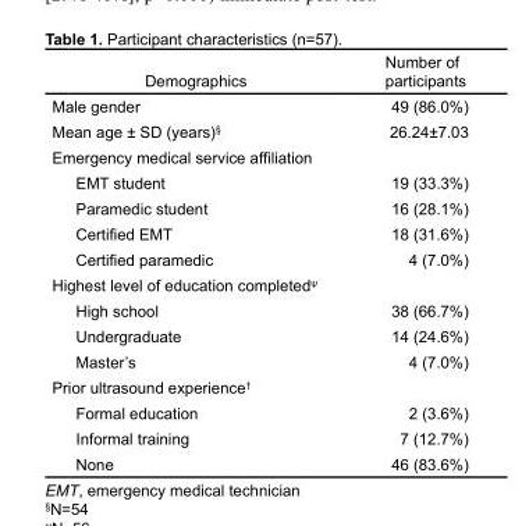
<table><thead><tr><td>Demographics</td><td>Number of participants</td></tr></thead><tbody><tr><td>Male gender</td><td>49 (86.0%)</td></tr><tr><td>Mean age ± SD (years)§</td><td>26.24±7.03</td></tr><tr><td colspan="2">Emergency medical service affiliation</td></tr><tr><td>EMT student</td><td>19 (33.3%)</td></tr><tr><td>Paramedic student</td><td>16 (28.1%)</td></tr><tr><td>Certified EMT</td><td>18 (31.6%)</td></tr><tr><td>Certified paramedic</td><td>4 (7.0%)</td></tr><tr><td colspan="2">Highest level of education completedψ</td></tr><tr><td>High school</td><td>38 (66.7%)</td></tr><tr><td>Undergraduate</td><td>14 (24.6%)</td></tr><tr><td>Master’s</td><td>4 (7.0%)</td></tr><tr><td colspan="2">Prior ultrasound experience†</td></tr><tr><td>Formal education</td><td>2 (3.6%)</td></tr><tr><td>Informal training</td><td>7 (12.7%)</td></tr><tr><td>None</td><td>46 (83.6%)</td></tr></tbody></table>